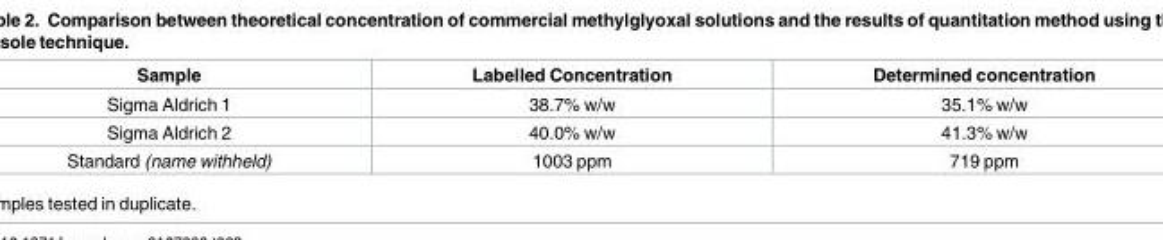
<table><thead><tr><td>Sample</td><td>Labelled Concentration</td><td>Determined concentration</td></tr></thead><tbody><tr><td>Sigma Aldrich 1</td><td>38.7% w/w</td><td>35.1% w/w</td></tr><tr><td>Sigma Aldrich 2</td><td>40.0% w/w</td><td>41.3% w/w</td></tr><tr><td>Standard (name withheld)</td><td>1003 ppm</td><td>719 ppm</td></tr></tbody></table>